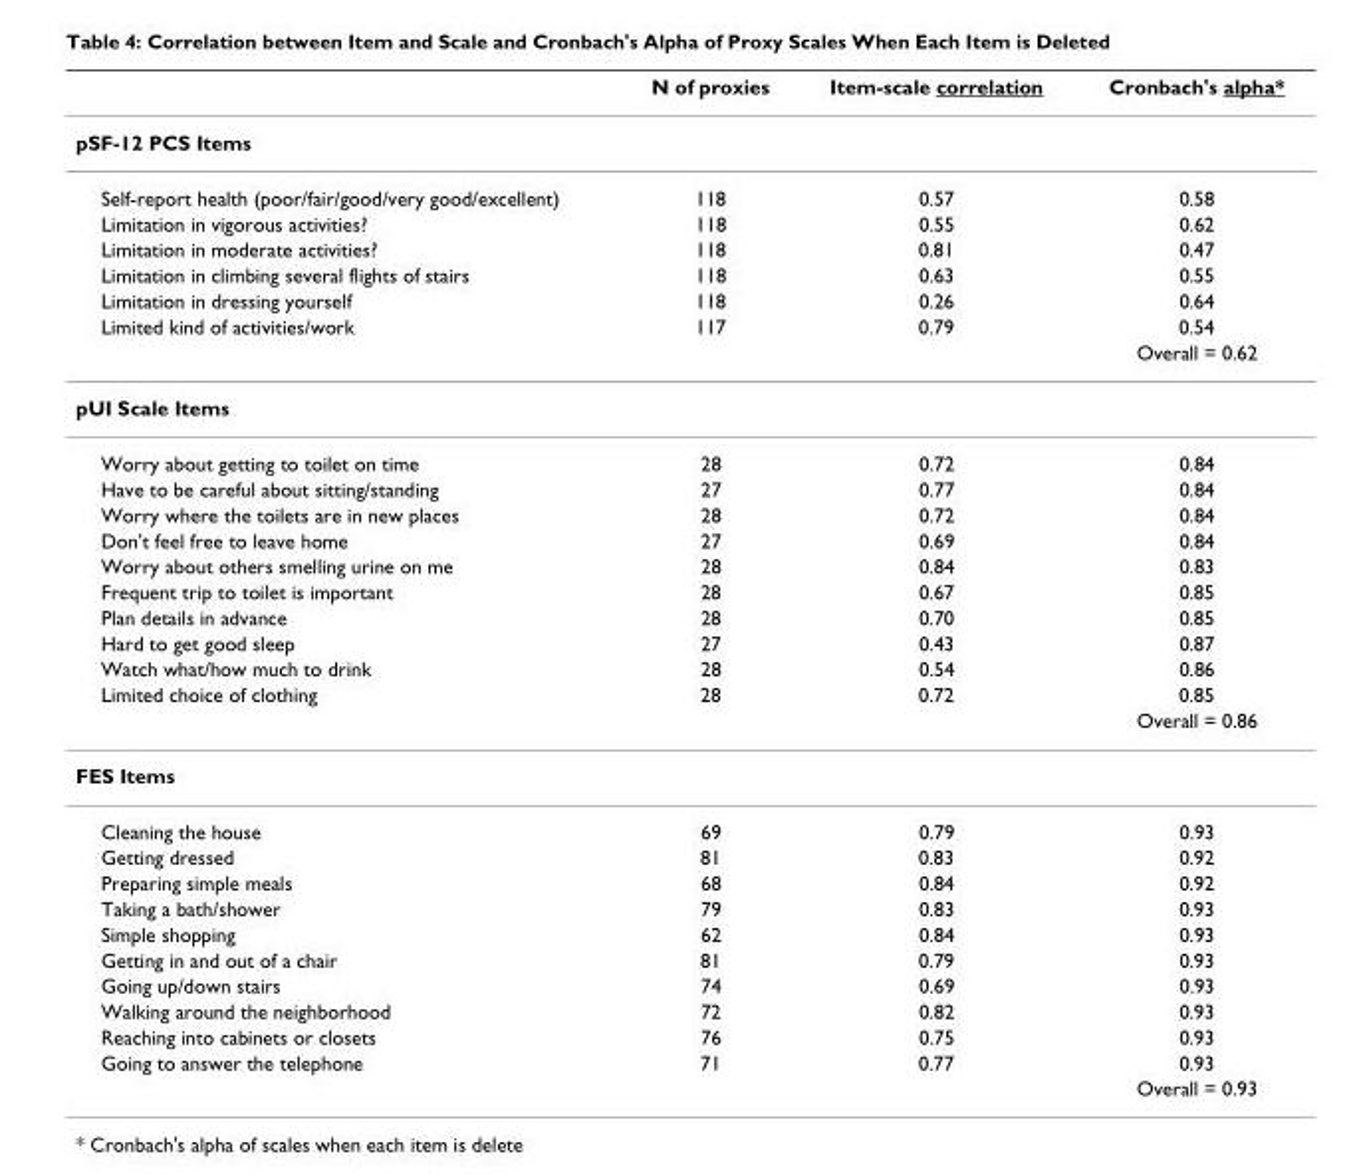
<table><thead><tr><td></td><td>N of proxies</td><td>Item-scale correlation</td><td>Cronbach&#x27;s alpha*</td></tr></thead><tbody><tr><td colspan="4">pSF-12 PCS Items</td></tr><tr><td>Self-report health (poor/fair/good/very good/excellent)</td><td>118</td><td>0.57</td><td>0.58</td></tr><tr><td>Limitation in vigorous activities?</td><td>118</td><td>0.55</td><td>0.62</td></tr><tr><td>Limitation in moderate activities?</td><td>118</td><td>0.81</td><td>0.47</td></tr><tr><td>Limitation in climbing several flights of stairs</td><td>118</td><td>0.63</td><td>0.55</td></tr><tr><td>Limitation in dressing yourself</td><td>118</td><td>0.26</td><td>0.64</td></tr><tr><td rowspan="2">Limited kind of activities/work</td><td>117</td><td>0.79</td><td>0.54</td></tr><tr><td></td><td></td><td>Overall = 0.62</td></tr><tr><td colspan="4">pUI Scale Items</td></tr><tr><td>Worry about getting to toilet on time</td><td>28</td><td>0.72</td><td>0.84</td></tr><tr><td>Have to be careful about sitting/standing</td><td>27</td><td>0.77</td><td>0.84</td></tr><tr><td>Worry where the toilets are in new places</td><td>28</td><td>0.72</td><td>0.84</td></tr><tr><td>Don&#x27;t feel free to leave home</td><td>27</td><td>0.69</td><td>0.84</td></tr><tr><td>Worry about others smelling urine on me</td><td>28</td><td>0.84</td><td>0.83</td></tr><tr><td>Frequent trip to toilet is important</td><td>28</td><td>0.67</td><td>0.85</td></tr><tr><td>Plan details in advance</td><td>28</td><td>0.70</td><td>0.85</td></tr><tr><td>Hard to get good sleep</td><td>27</td><td>0.43</td><td>0.87</td></tr><tr><td>Watch what/how much to drink</td><td>28</td><td>0.54</td><td>0.86</td></tr><tr><td rowspan="2">Limited choice of clothing</td><td>28</td><td>0.72</td><td>0.85</td></tr><tr><td></td><td></td><td>Overall = 0.86</td></tr><tr><td colspan="4">FES Items</td></tr><tr><td>Cleaning the house</td><td>69</td><td>0.79</td><td>0.93</td></tr><tr><td>Getting dressed</td><td>81</td><td>0.83</td><td>0.92</td></tr><tr><td>Preparing simple meals</td><td>68</td><td>0.84</td><td>0.92</td></tr><tr><td>Taking a bath/shower</td><td>79</td><td>0.83</td><td>0.93</td></tr><tr><td>Simple shopping</td><td>62</td><td>0.84</td><td>0.93</td></tr><tr><td>Getting in and out of a chair</td><td>81</td><td>0.79</td><td>0.93</td></tr><tr><td>Going up/down stairs</td><td>74</td><td>0.69</td><td>0.93</td></tr><tr><td>Walking around the neighborhood</td><td>72</td><td>0.82</td><td>0.93</td></tr><tr><td>Reaching into cabinets or closets</td><td>76</td><td>0.75</td><td>0.93</td></tr><tr><td rowspan="2">Going to answer the telephone</td><td>71</td><td>0.77</td><td>0.93</td></tr><tr><td></td><td></td><td>Overall = 0.93</td></tr></tbody></table>